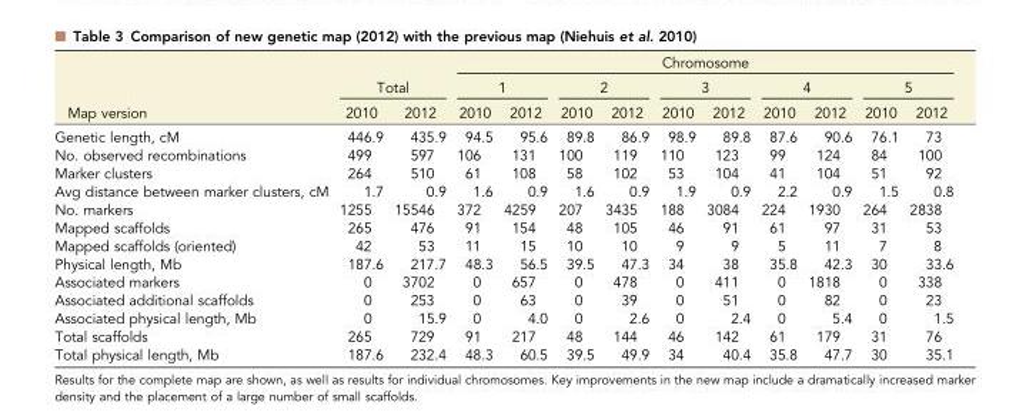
<table><thead><tr><td rowspan="3">Map version</td><td></td><td></td><td colspan="10">Chromosome</td></tr><tr><td colspan="2">Total</td><td colspan="2">1</td><td colspan="2">2</td><td colspan="2">3</td><td colspan="2">4</td><td colspan="2">5</td></tr><tr><td>2010</td><td>2012</td><td>2010</td><td>2012</td><td>2010</td><td>2012</td><td>2010</td><td>2012</td><td>2010</td><td>2012</td><td>2010</td><td>2012</td></tr></thead><tbody><tr><td>Genetic length, cM</td><td>446.9</td><td>435.9</td><td>94.5</td><td>95.6</td><td>89.8</td><td>86.9</td><td>98.9</td><td>89.8</td><td>87.6</td><td>90.6</td><td>76.1</td><td>73</td></tr><tr><td>No. observed recombinations</td><td>499</td><td>597</td><td>106</td><td>131</td><td>100</td><td>119</td><td>110</td><td>123</td><td>99</td><td>124</td><td>84</td><td>100</td></tr><tr><td>Marker clusters</td><td>264</td><td>510</td><td>61</td><td>108</td><td>58</td><td>102</td><td>53</td><td>104</td><td>41</td><td>104</td><td>51</td><td>92</td></tr><tr><td>Avg distance between marker clusters, cM</td><td>1.7</td><td>0.9</td><td>1.6</td><td>0.9</td><td>1.6</td><td>0.9</td><td>1.9</td><td>0.9</td><td>2.2</td><td>0.9</td><td>1.5</td><td>0.8</td></tr><tr><td>No. markers</td><td>1255</td><td>15546</td><td>372</td><td>4259</td><td>207</td><td>3435</td><td>188</td><td>3084</td><td>224</td><td>1930</td><td>264</td><td>2838</td></tr><tr><td>Mapped scaffolds</td><td>265</td><td>476</td><td>91</td><td>154</td><td>48</td><td>105</td><td>46</td><td>91</td><td>61</td><td>97</td><td>31</td><td>53</td></tr><tr><td>Mapped scaffolds (oriented)</td><td>42</td><td>53</td><td>11</td><td>15</td><td>10</td><td>10</td><td>9</td><td>9</td><td>5</td><td>11</td><td>7</td><td>8</td></tr><tr><td>Physical length, Mb</td><td>187.6</td><td>217.7</td><td>48.3</td><td>56.5</td><td>39.5</td><td>47.3</td><td>34</td><td>38</td><td>35.8</td><td>42.3</td><td>30</td><td>33.6</td></tr><tr><td>Associated markers</td><td>0</td><td>3702</td><td>0</td><td>657</td><td>0</td><td>478</td><td>0</td><td>411</td><td>0</td><td>1818</td><td>0</td><td>338</td></tr><tr><td>Associated additional scaffolds</td><td>0</td><td>253</td><td>0</td><td>63</td><td>0</td><td>39</td><td>0</td><td>51</td><td>0</td><td>82</td><td>0</td><td>23</td></tr><tr><td>Associated physical length, Mb</td><td>0</td><td>15.9</td><td>0</td><td>4.0</td><td>0</td><td>2.6</td><td>0</td><td>2.4</td><td>0</td><td>5.4</td><td>0</td><td>1.5</td></tr><tr><td>Total scaffolds</td><td>265</td><td>729</td><td>91</td><td>217</td><td>48</td><td>144</td><td>46</td><td>142</td><td>61</td><td>179</td><td>31</td><td>76</td></tr><tr><td>Total physical length, Mb</td><td>187.6</td><td>232.4</td><td>48.3</td><td>60.5</td><td>39.5</td><td>49.9</td><td>34</td><td>40.4</td><td>35.8</td><td>47.7</td><td>30</td><td>35.1</td></tr></tbody></table>